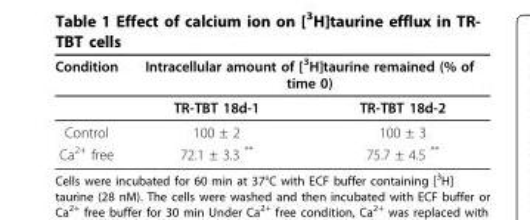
<table><thead><tr><td rowspan="2">Condition</td><td colspan="2">Intracellular amount of [<sup>3</sup>H]taurine remained (% of time 0)</td></tr><tr><td>TR-TBT 18d-1</td><td>TR-TBT 18d-2</td></tr></thead><tbody><tr><td>Control</td><td>100 ± 2</td><td>100 ± 3</td></tr><tr><td>Ca<sup>2+</sup> free</td><td>72.1 ± 3.3 **</td><td>75.7 ± 4.5 **</td></tr></tbody></table>